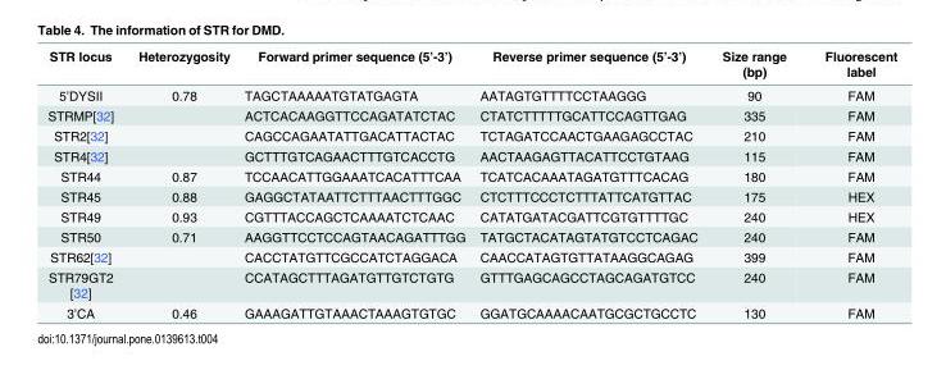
<table><thead><tr><td>STR locus</td><td>Heterozygosity</td><td>Forward primer sequence (5’-3’)</td><td>Reverse primer sequence (5’-3’)</td><td>Size range (bp)</td><td>Fluorescent label</td></tr></thead><tbody><tr><td>5’DYSII</td><td>0.78</td><td>TAGCTAAAAATGTATGAGTA</td><td>AATAGTGTTTTCCTAAGGG</td><td>90</td><td>FAM</td></tr><tr><td>STRMP[32]</td><td></td><td>ACTCACAAGGTTCCAGATATCTAC</td><td>CTATCTTTTTGCATTCCAGTTGAG</td><td>335</td><td>FAM</td></tr><tr><td>STR2[32]</td><td></td><td>CAGCCAGAATATTGACATTACTAC</td><td>TCTAGATCCAACTGAAGAGCCTAC</td><td>210</td><td>FAM</td></tr><tr><td>STR4[32]</td><td></td><td>GCTTTGTCAGAACTTTGTCACCTG</td><td>AACTAAGAGTTACATTCCTGTAAG</td><td>115</td><td>FAM</td></tr><tr><td>STR44</td><td>0.87</td><td>TCCAACATTGGAAATCACATTTCAA</td><td>TCATCACAAATAGATGTTTCACAG</td><td>180</td><td>FAM</td></tr><tr><td>STR45</td><td>0.88</td><td>GAGGCTATAATTCTTTAACTTTGGC</td><td>CTCTTTCCCTCTTTATTCATGTTAC</td><td>175</td><td>HEX</td></tr><tr><td>STR49</td><td>0.93</td><td>CGTTTACCAGCTCAAAATCTCAAC</td><td>CATATGATACGATTCGTGTTTTGC</td><td>240</td><td>HEX</td></tr><tr><td>STR50</td><td>0.71</td><td>AAGGTTCCTCCAGTAACAGATTTGG</td><td>TATGCTACATAGTATGTCCTCAGAC</td><td>240</td><td>FAM</td></tr><tr><td>STR62[32]</td><td></td><td>CACCTATGTTCGCCATCTAGGACA</td><td>CAACCATAGTGTTATAAGGCAGAG</td><td>399</td><td>FAM</td></tr><tr><td>STR79GT2 [32]</td><td></td><td>CCATAGCTTTAGATGTTGTCTGTG</td><td>GTTTGAGCAGCCTAGCAGATGTCC</td><td>240</td><td>FAM</td></tr><tr><td>3’CA</td><td>0.46</td><td>GAAAGATTGTAAACTAAAGTGTGC</td><td>GGATGCAAAACAATGCGCTGCCTC</td><td>130</td><td>FAM</td></tr></tbody></table>